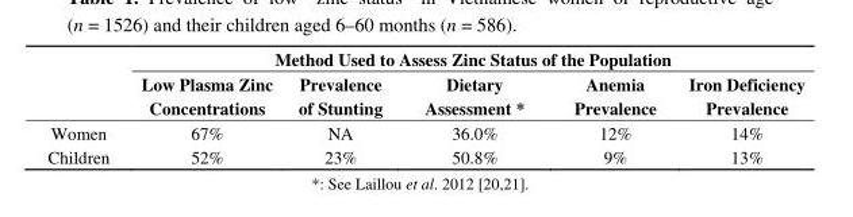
<table><thead><tr><td rowspan="2"></td><td colspan="5">Method Used to Assess Zinc Status of the Population</td></tr><tr><td>Low Plasma Zinc Concentrations</td><td>Prevalence of Stunting</td><td>Dietary Assessment *</td><td>Anemia Prevalence</td><td>Iron Deficiency Prevalence</td></tr></thead><tbody><tr><td>Women</td><td>67%</td><td>NA</td><td>36.0%</td><td>12%</td><td>14%</td></tr><tr><td>Children</td><td>52%</td><td>23%</td><td>50.8%</td><td>9%</td><td>13%</td></tr></tbody></table>